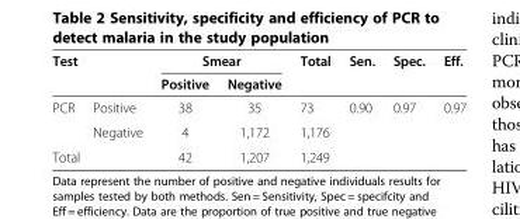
<table><thead><tr><td colspan="2">Test</td><td colspan="2">Smear</td><td rowspan="2">Total</td><td rowspan="2">Sen.</td><td rowspan="2">Spec.</td><td rowspan="2">Eff.</td></tr><tr><td></td><td></td><td>Positive</td><td>Negative</td></tr></thead><tbody><tr><td rowspan="2">PCR</td><td>Positive</td><td>38</td><td>35</td><td>73</td><td>0.90</td><td>0.97</td><td>0.97</td></tr><tr><td>Negative</td><td>4</td><td>1,172</td><td>1,176</td><td></td><td></td><td></td></tr><tr><td colspan="2">Total</td><td>42</td><td>1,207</td><td>1,249</td><td></td><td></td><td></td></tr></tbody></table>